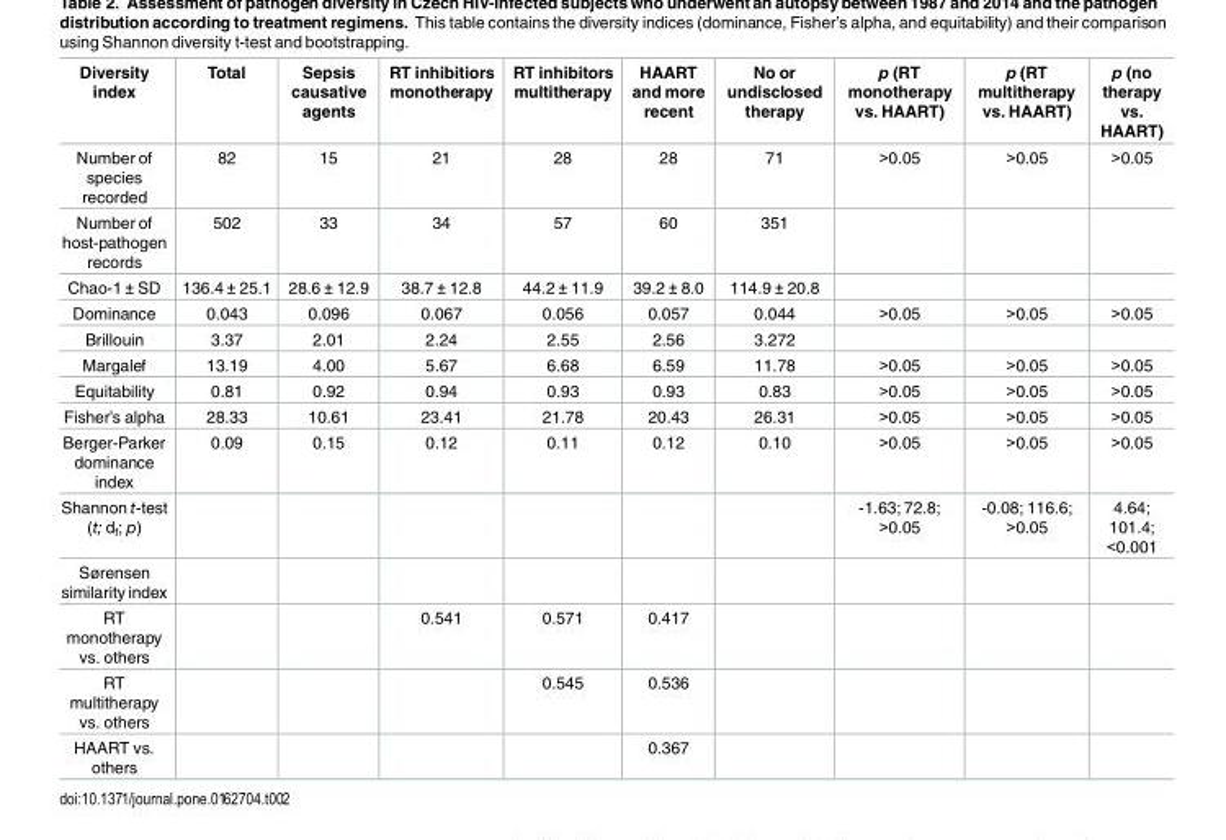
<table><thead><tr><td>Diversity index</td><td>Total</td><td>Sepsis causative agents</td><td>RT inhibitiors monotherapy</td><td>RT inhibitors multitherapy</td><td>HAART and more recent</td><td>No or undisclosed therapy</td><td>p (RT monotherapy vs. HAART)</td><td>p (RT multitherapy vs. HAART)</td><td>p (no therapy vs. HAART)</td></tr></thead><tbody><tr><td>Number of species recorded</td><td>82</td><td>15</td><td>21</td><td>28</td><td>28</td><td>71</td><td>&gt;0.05</td><td>&gt;0.05</td><td>&gt;0.05</td></tr><tr><td>Number of host-pathogen records</td><td>502</td><td>33</td><td>34</td><td>57</td><td>60</td><td>351</td><td></td><td></td><td></td></tr><tr><td>Chao-1 ± SD</td><td>136.4 ± 25.1</td><td>28.6 ± 12.9</td><td>38.7 ± 12.8</td><td>44.2 ± 11.9</td><td>39.2 ± 8.0</td><td>114.9 ± 20.8</td><td></td><td></td><td></td></tr><tr><td>Dominance</td><td>0.043</td><td>0.096</td><td>0.067</td><td>0.056</td><td>0.057</td><td>0.044</td><td>&gt;0.05</td><td>&gt;0.05</td><td>&gt;0.05</td></tr><tr><td>Brillouin</td><td>3.37</td><td>2.01</td><td>2.24</td><td>2.55</td><td>2.56</td><td>3.272</td><td></td><td></td><td></td></tr><tr><td>Margalef</td><td>13.19</td><td>4.00</td><td>5.67</td><td>6.68</td><td>6.59</td><td>11.78</td><td>&gt;0.05</td><td>&gt;0.05</td><td>&gt;0.05</td></tr><tr><td>Equitability</td><td>0.81</td><td>0.92</td><td>0.94</td><td>0.93</td><td>0.93</td><td>0.83</td><td>&gt;0.05</td><td>&gt;0.05</td><td>&gt;0.05</td></tr><tr><td>Fisher’s alpha</td><td>28.33</td><td>10.61</td><td>23.41</td><td>21.78</td><td>20.43</td><td>26.31</td><td>&gt;0.05</td><td>&gt;0.05</td><td>&gt;0.05</td></tr><tr><td>Berger-Parker dominance index</td><td>0.09</td><td>0.15</td><td>0.12</td><td>0.11</td><td>0.12</td><td>0.10</td><td>&gt;0.05</td><td>&gt;0.05</td><td>&gt;0.05</td></tr><tr><td>Shannon t-test (t; d<sub>f</sub>; p)</td><td></td><td></td><td></td><td></td><td></td><td></td><td>-1.63; 72.8; &gt;0.05</td><td>-0.08; 116.6; &gt;0.05</td><td>4.64; 101.4; &lt;0.001</td></tr><tr><td colspan="10">Sørensen similarity index</td></tr><tr><td>RT monotherapy vs. others</td><td></td><td></td><td>0.541</td><td>0.571</td><td>0.417</td><td></td><td></td><td></td><td></td></tr><tr><td>RT multitherapy vs. others</td><td></td><td></td><td></td><td>0.545</td><td>0.536</td><td></td><td></td><td></td><td></td></tr><tr><td>HAART vs. others</td><td></td><td></td><td></td><td></td><td>0.367</td><td></td><td></td><td></td><td></td></tr></tbody></table>